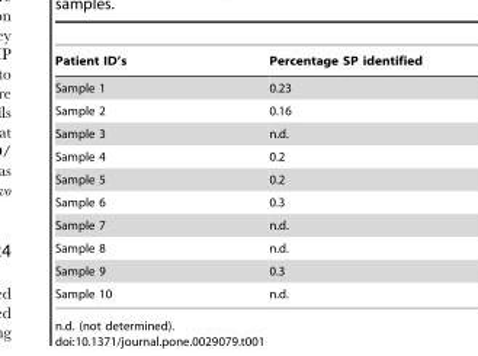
<table><thead><tr><td>Patient ID’s</td><td>Percentage SP identified</td></tr></thead><tbody><tr><td>Sample 1</td><td>0.23</td></tr><tr><td>Sample 2</td><td>0.16</td></tr><tr><td>Sample 3</td><td>n.d.</td></tr><tr><td>Sample 4</td><td>0.2</td></tr><tr><td>Sample 5</td><td>0.2</td></tr><tr><td>Sample 6</td><td>0.3</td></tr><tr><td>Sample 7</td><td>n.d.</td></tr><tr><td>Sample 8</td><td>n.d.</td></tr><tr><td>Sample 9</td><td>0.3</td></tr><tr><td>Sample 10</td><td>n.d.</td></tr></tbody></table>